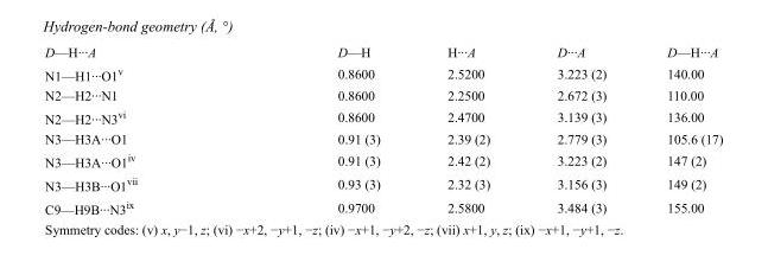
<table><tbody><tr><td>D—H···A</td><td>D—H</td><td>H···A</td><td>D···A</td><td>D—H···A</td></tr><tr><td>N1—H1···O1<sup>v</sup></td><td>0.8600</td><td>2.5200</td><td>3.223 (2)</td><td>140.00</td></tr><tr><td>N2—H2···N1</td><td>0.8600</td><td>2.2500</td><td>2.672 (3)</td><td>110.00</td></tr><tr><td>N2—H2···N3<sup>vi</sup></td><td>0.8600</td><td>2.4700</td><td>3.139 (3)</td><td>136.00</td></tr><tr><td>N3—H3A···O1</td><td>0.91 (3)</td><td>2.39 (2)</td><td>2.779 (3)</td><td>105.6 (17)</td></tr><tr><td>N3—H3A···O1<sup>iv</sup></td><td>0.91 (3)</td><td>2.42 (2)</td><td>3.223 (2)</td><td>147 (2)</td></tr><tr><td>N3—H3B···O1<sup>vii</sup></td><td>0.93 (3)</td><td>2.32 (3)</td><td>3.156 (3)</td><td>149 (2)</td></tr><tr><td>C9—H9B···N3<sup>ix</sup></td><td>0.9700</td><td>2.5800</td><td>3.484 (3)</td><td>155.00</td></tr></tbody></table>